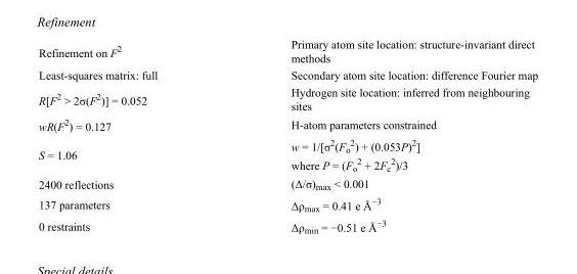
<table><tbody><tr><td>Refinement on F<sup>2</sup></td><td>Primary atom site location: structure-invariant direct methods</td></tr><tr><td>Least-squares matrix: full</td><td>Secondary atom site location: difference Fourier map</td></tr><tr><td>R[F<sup>2</sup> &gt; 2σ(F<sup>2</sup>)] = 0.052</td><td>Hydrogen site location: inferred from neighbouring sites</td></tr><tr><td>wR(F<sup>2</sup>) = 0.127</td><td>H-atom parameters constrained</td></tr><tr><td>S = 1.06</td><td>w = 1/[σ<sup>2</sup>(F<sub>o</sub> <sup>2</sup>) + (0.053P)<sup>2</sup>] where P = (F<sub>o</sub> <sup>2</sup> + 2F<sub>c</sub> <sup>2</sup>)/3</td></tr><tr><td>2400 reflections</td><td>(Δ/σ)<sub>max</sub> &lt; 0.001</td></tr><tr><td>137 parameters</td><td>Δρ<sub>max</sub> = 0.41 e Å<sup>−3</sup></td></tr><tr><td>0 restraints</td><td>Δρmin = −0.51 e Å−3</td></tr></tbody></table>